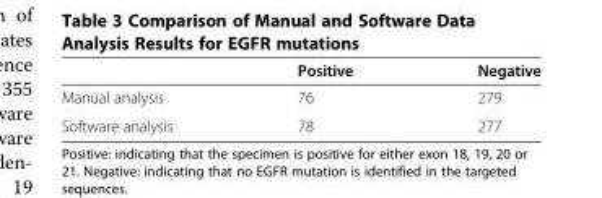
<table><thead><tr><td></td><td>Positive</td><td>Negative</td></tr></thead><tbody><tr><td>Manual analysis</td><td>76</td><td>279</td></tr><tr><td>Software analysis</td><td>78</td><td>277</td></tr></tbody></table>